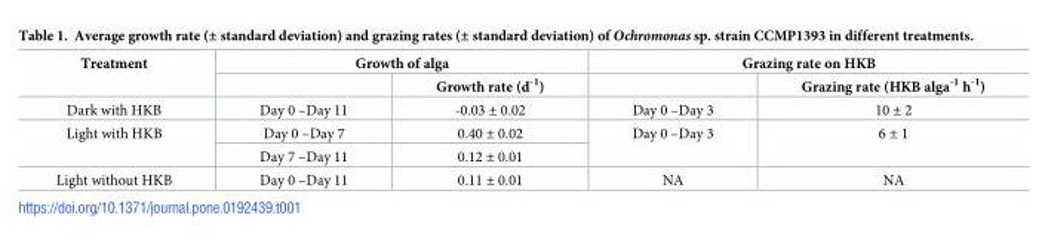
<table><thead><tr><td rowspan="2">Treatment</td><td colspan="2">Growth of alga</td><td colspan="2">Grazing rate on HKB</td></tr><tr><td></td><td>Growth rate (d<sup>-1</sup>)</td><td></td><td>Grazing rate (HKB alga<sup>-1</sup> h<sup>-1</sup>)</td></tr></thead><tbody><tr><td>Dark with HKB</td><td>Day 0 –Day 11</td><td>-0.03 ± 0.02</td><td>Day 0 –Day 3</td><td>10 ± 2</td></tr><tr><td rowspan="2">Light with HKB</td><td>Day 0 –Day 7</td><td>0.40 ± 0.02</td><td rowspan="2">Day 0 –Day 3</td><td rowspan="2">6 ± 1</td></tr><tr><td>Day 7 –Day 11</td><td>0.12 ± 0.01</td></tr><tr><td>Light without HKB</td><td>Day 0 –Day 11</td><td>0.11 ± 0.01</td><td>NA</td><td>NA</td></tr></tbody></table>